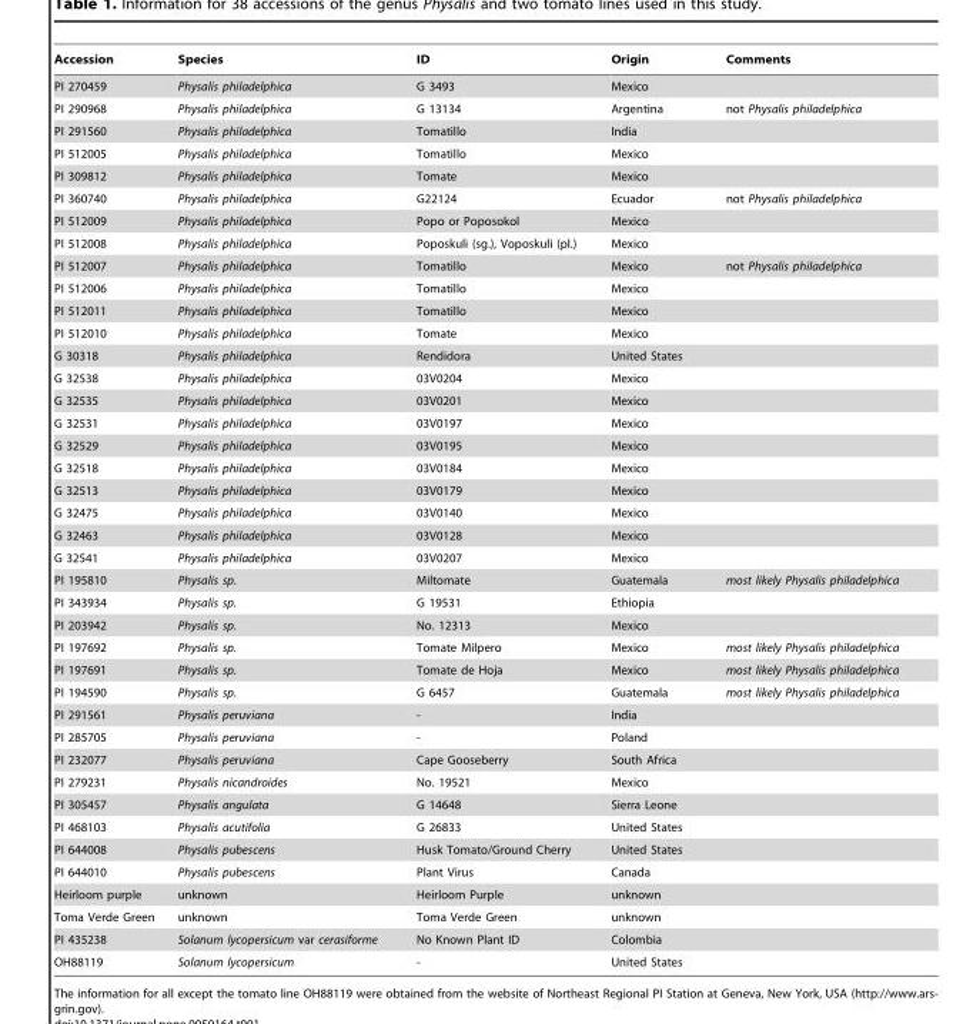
<table><thead><tr><td>Accession</td><td>Species</td><td>ID</td><td>Origin</td><td>Comments</td></tr></thead><tbody><tr><td>PI 270459</td><td>Physalis philadelphica</td><td>G 3493</td><td>Mexico</td><td></td></tr><tr><td>PI 290968</td><td>Physalis philadelphica</td><td>G 13134</td><td>Argentina</td><td>not Physalis philadelphica</td></tr><tr><td>PI 291560</td><td>Physalis philadelphica</td><td>Tomatillo</td><td>India</td><td></td></tr><tr><td>PI 512005</td><td>Physalis philadelphica</td><td>Tomatillo</td><td>Mexico</td><td></td></tr><tr><td>PI 309812</td><td>Physalis philadelphica</td><td>Tomate</td><td>Mexico</td><td></td></tr><tr><td>PI 360740</td><td>Physalis philadelphica</td><td>G22124</td><td>Ecuador</td><td>not Physalis philadelphica</td></tr><tr><td>PI 512009</td><td>Physalis philadelphica</td><td>Popo or Poposokol</td><td>Mexico</td><td></td></tr><tr><td>PI 512008</td><td>Physalis philadelphica</td><td>Poposkuli (sg.), Voposkuli (pl.)</td><td>Mexico</td><td></td></tr><tr><td>PI 512007</td><td>Physalis philadelphica</td><td>Tomatillo</td><td>Mexico</td><td>not Physalis philadelphica</td></tr><tr><td>PI 512006</td><td>Physalis philadelphica</td><td>Tomatillo</td><td>Mexico</td><td></td></tr><tr><td>PI 512011</td><td>Physalis philadelphica</td><td>Tomatillo</td><td>Mexico</td><td></td></tr><tr><td>PI 512010</td><td>Physalis philadelphica</td><td>Tomate</td><td>Mexico</td><td></td></tr><tr><td>G 30318</td><td>Physalis philadelphica</td><td>Rendidora</td><td>United States</td><td></td></tr><tr><td>G 32538</td><td>Physalis philadelphica</td><td>03V0204</td><td>Mexico</td><td></td></tr><tr><td>G 32535</td><td>Physalis philadelphica</td><td>03V0201</td><td>Mexico</td><td></td></tr><tr><td>G 32531</td><td>Physalis philadelphica</td><td>03V0197</td><td>Mexico</td><td></td></tr><tr><td>G 32529</td><td>Physalis philadelphica</td><td>03V0195</td><td>Mexico</td><td></td></tr><tr><td>G 32518</td><td>Physalis philadelphica</td><td>03V0184</td><td>Mexico</td><td></td></tr><tr><td>G 32513</td><td>Physalis philadelphica</td><td>03V0179</td><td>Mexico</td><td></td></tr><tr><td>G 32475</td><td>Physalis philadelphica</td><td>03V0140</td><td>Mexico</td><td></td></tr><tr><td>G 32463</td><td>Physalis philadelphica</td><td>03V0128</td><td>Mexico</td><td></td></tr><tr><td>G 32541</td><td>Physalis philadelphica</td><td>03V0207</td><td>Mexico</td><td></td></tr><tr><td>PI 195810</td><td>Physalis sp.</td><td>Miltomate</td><td>Guatemala</td><td>most likely Physalis philadelphica</td></tr><tr><td>PI 343934</td><td>Physalis sp.</td><td>G 19531</td><td>Ethiopia</td><td></td></tr><tr><td>PI 203942</td><td>Physalis sp.</td><td>No. 12313</td><td>Mexico</td><td></td></tr><tr><td>PI 197692</td><td>Physalis sp.</td><td>Tomate Milpero</td><td>Mexico</td><td>most likely Physalis philadelphica</td></tr><tr><td>PI 197691</td><td>Physalis sp.</td><td>Tomate de Hoja</td><td>Mexico</td><td>most likely Physalis philadelphica</td></tr><tr><td>PI 194590</td><td>Physalis sp.</td><td>G 6457</td><td>Guatemala</td><td>most likely Physalis philadelphica</td></tr><tr><td>PI 291561</td><td>Physalis peruviana</td><td>-</td><td>India</td><td></td></tr><tr><td>PI 285705</td><td>Physalis peruviana</td><td>-</td><td>Poland</td><td></td></tr><tr><td>PI 232077</td><td>Physalis peruviana</td><td>Cape Gooseberry</td><td>South Africa</td><td></td></tr><tr><td>PI 279231</td><td>Physalis nicandroides</td><td>No. 19521</td><td>Mexico</td><td></td></tr><tr><td>PI 305457</td><td>Physalis angulata</td><td>G 14648</td><td>Sierra Leone</td><td></td></tr><tr><td>PI 468103</td><td>Physalis acutifolia</td><td>G 26833</td><td>United States</td><td></td></tr><tr><td>PI 644008</td><td>Physalis pubescens</td><td>Husk Tomato/Ground Cherry</td><td>United States</td><td></td></tr><tr><td>PI 644010</td><td>Physalis pubescens</td><td>Plant Virus</td><td>Canada</td><td></td></tr><tr><td>Heirloom purple</td><td>unknown</td><td>Heirloom Purple</td><td>unknown</td><td></td></tr><tr><td>Toma Verde Green</td><td>unknown</td><td>Toma Verde Green</td><td>unknown</td><td></td></tr><tr><td>PI 435238</td><td>Solanum lycopersicum var cerasiforme</td><td>No Known Plant ID</td><td>Colombia</td><td></td></tr><tr><td>OH88119</td><td>Solanum lycopersicum</td><td>-</td><td>United States</td><td></td></tr></tbody></table>